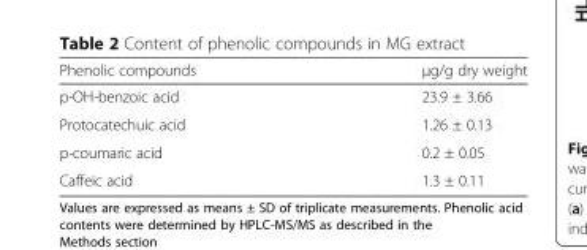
<table><thead><tr><td>Phenolic compounds</td><td>μg/g dry weight</td></tr></thead><tbody><tr><td>p-OH-benzoic acid</td><td>23.9 ± 3.66</td></tr><tr><td>Protocatechuic acid</td><td>1.26 ± 0.13</td></tr><tr><td>p-coumaric acid</td><td>0.2 ± 0.05</td></tr><tr><td>Caffeic acid</td><td>1.3 ± 0.11</td></tr></tbody></table>